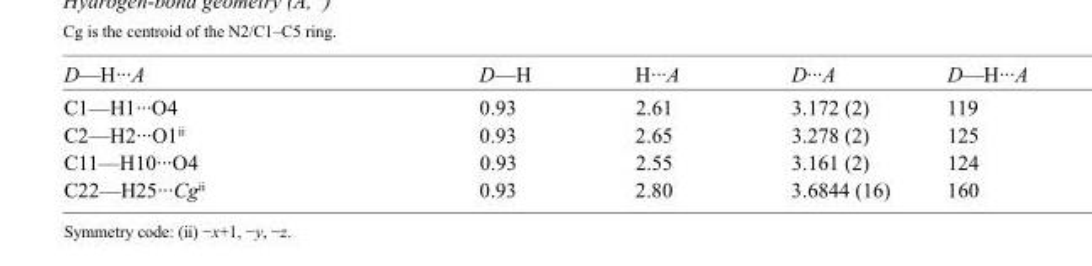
<table><tbody><tr><td>D—H···A</td><td>D—H</td><td>H···A</td><td>D···A</td><td>D—H···A</td></tr><tr><td>C1—H1···O4</td><td>0.93</td><td>2.61</td><td>3.172 (2)</td><td>119</td></tr><tr><td>C2—H2···O1<sup>ii</sup></td><td>0.93</td><td>2.65</td><td>3.278 (2)</td><td>125</td></tr><tr><td>C11—H10···O4</td><td>0.93</td><td>2.55</td><td>3.161 (2)</td><td>124</td></tr><tr><td>C22—H25···Cg<sup>ii</sup></td><td>0.93</td><td>2.80</td><td>3.6844 (16)</td><td>160</td></tr></tbody></table>